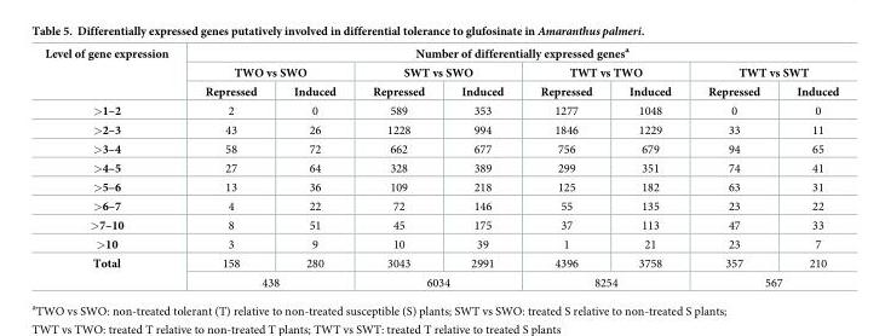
<table><thead><tr><td rowspan="3">Level of gene expression</td><td colspan="8">Number of differentially expressed genes<sup>a</sup></td></tr><tr><td colspan="2">TWO vs SWO</td><td colspan="2">SWT vs SWO</td><td colspan="2">TWT vs TWO</td><td colspan="2">TWT vs SWT</td></tr><tr><td>Repressed</td><td>Induced</td><td>Repressed</td><td>Induced</td><td>Repressed</td><td>Induced</td><td>Repressed</td><td>Induced</td></tr></thead><tbody><tr><td>&gt;1–2</td><td>2</td><td>0</td><td>589</td><td>353</td><td>1277</td><td>1048</td><td>0</td><td>0</td></tr><tr><td>&gt;2–3</td><td>43</td><td>26</td><td>1228</td><td>994</td><td>1846</td><td>1229</td><td>33</td><td>11</td></tr><tr><td>&gt;3–4</td><td>58</td><td>72</td><td>662</td><td>677</td><td>756</td><td>679</td><td>94</td><td>65</td></tr><tr><td>&gt;4–5</td><td>27</td><td>64</td><td>328</td><td>389</td><td>299</td><td>351</td><td>74</td><td>41</td></tr><tr><td>&gt;5–6</td><td>13</td><td>36</td><td>109</td><td>218</td><td>125</td><td>182</td><td>63</td><td>31</td></tr><tr><td>&gt;6–7</td><td>4</td><td>22</td><td>72</td><td>146</td><td>55</td><td>135</td><td>23</td><td>22</td></tr><tr><td>&gt;7–10</td><td>8</td><td>51</td><td>45</td><td>175</td><td>37</td><td>113</td><td>47</td><td>33</td></tr><tr><td>&gt;10</td><td>3</td><td>9</td><td>10</td><td>39</td><td>1</td><td>21</td><td>23</td><td>7</td></tr><tr><td rowspan="2">Total</td><td>158</td><td>280</td><td>3043</td><td>2991</td><td>4396</td><td>3758</td><td>357</td><td>210</td></tr><tr><td colspan="2">438</td><td colspan="2">6034</td><td colspan="2">8254</td><td colspan="2">567</td></tr></tbody></table>